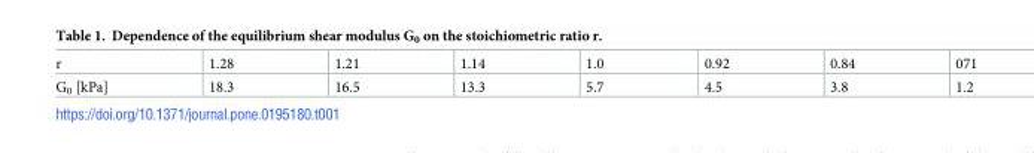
<table><tbody><tr><td>r</td><td>1.28</td><td>1.21</td><td>1.14</td><td>1.0</td><td>0.92</td><td>0.84</td><td>071</td></tr><tr><td>G<sub>0</sub> [kPa]</td><td>18.3</td><td>16.5</td><td>13.3</td><td>5.7</td><td>4.5</td><td>3.8</td><td>1.2</td></tr></tbody></table>